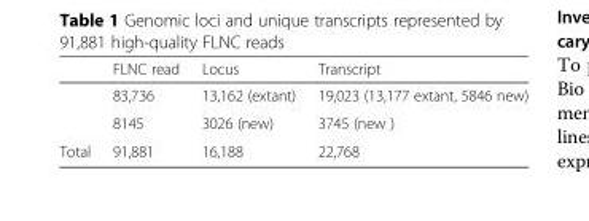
<table><thead><tr><td></td><td>FLNC read</td><td>Locus</td><td>Transcript</td></tr></thead><tbody><tr><td></td><td>83,736</td><td>13,162 (extant)</td><td>19,023 (13,177 extant, 5846 new)</td></tr><tr><td></td><td>8145</td><td>3026 (new)</td><td>3745 (new )</td></tr><tr><td>Total</td><td>91,881</td><td>16,188</td><td>22,768</td></tr></tbody></table>